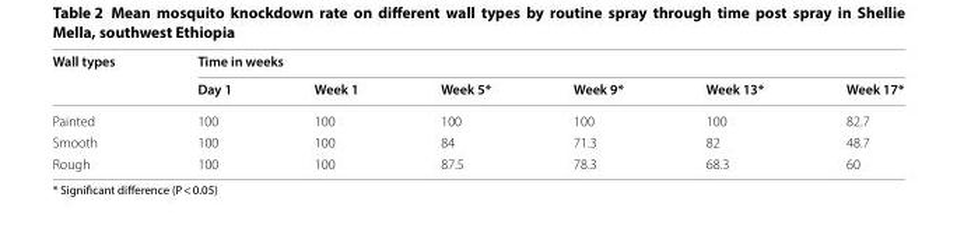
<table><thead><tr><td rowspan="2">Wall types</td><td colspan="6">Time in weeks</td></tr><tr><td>Day 1</td><td>Week 1</td><td>Week 5*</td><td>Week 9*</td><td>Week 13*</td><td>Week 17*</td></tr></thead><tbody><tr><td>Painted</td><td>100</td><td>100</td><td>100</td><td>100</td><td>100</td><td>82.7</td></tr><tr><td>Smooth</td><td>100</td><td>100</td><td>84</td><td>71.3</td><td>82</td><td>48.7</td></tr><tr><td>Rough</td><td>100</td><td>100</td><td>87.5</td><td>78.3</td><td>68.3</td><td>60</td></tr></tbody></table>